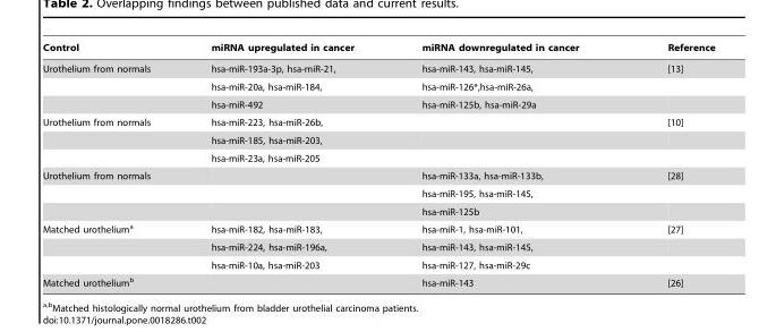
<table><thead><tr><td>Control</td><td>miRNA upregulated in cancer</td><td>miRNA downregulated in cancer</td><td>Reference</td></tr></thead><tbody><tr><td rowspan="3">Urothelium from normals</td><td>hsa-miR-193a-3p, hsa-miR-21,</td><td>hsa-miR-143, hsa-miR-145,</td><td>[13]</td></tr><tr><td>hsa-miR-20a, hsa-miR-184,</td><td>hsa-miR-126*,hsa-miR-26a,</td><td></td></tr><tr><td>hsa-miR-492</td><td>hsa-miR-125b, hsa-miR-29a</td><td></td></tr><tr><td rowspan="3">Urothelium from normals</td><td>hsa-miR-223, hsa-miR-26b,</td><td></td><td>[10]</td></tr><tr><td>hsa-miR-185, hsa-miR-203,</td><td></td><td></td></tr><tr><td>hsa-miR-23a, hsa-miR-205</td><td></td><td></td></tr><tr><td rowspan="3">Urothelium from normals</td><td></td><td>hsa-miR-133a, hsa-miR-133b,</td><td>[28]</td></tr><tr><td></td><td>hsa-miR-195, hsa-miR-145,</td><td></td></tr><tr><td></td><td>hsa-miR-125b</td><td></td></tr><tr><td rowspan="3">Matched urothelium<sup>a</sup></td><td>hsa-miR-182, hsa-miR-183,</td><td>hsa-miR-1, hsa-miR-101,</td><td>[27]</td></tr><tr><td>hsa-miR-224, hsa-miR-196a,</td><td>hsa-miR-143, hsa-miR-145,</td><td></td></tr><tr><td>hsa-miR-10a, hsa-miR-203</td><td>hsa-miR-127, hsa-miR-29c</td><td></td></tr><tr><td>Matched urothelium<sup>b</sup></td><td></td><td>hsa-miR-143</td><td>[26]</td></tr></tbody></table>